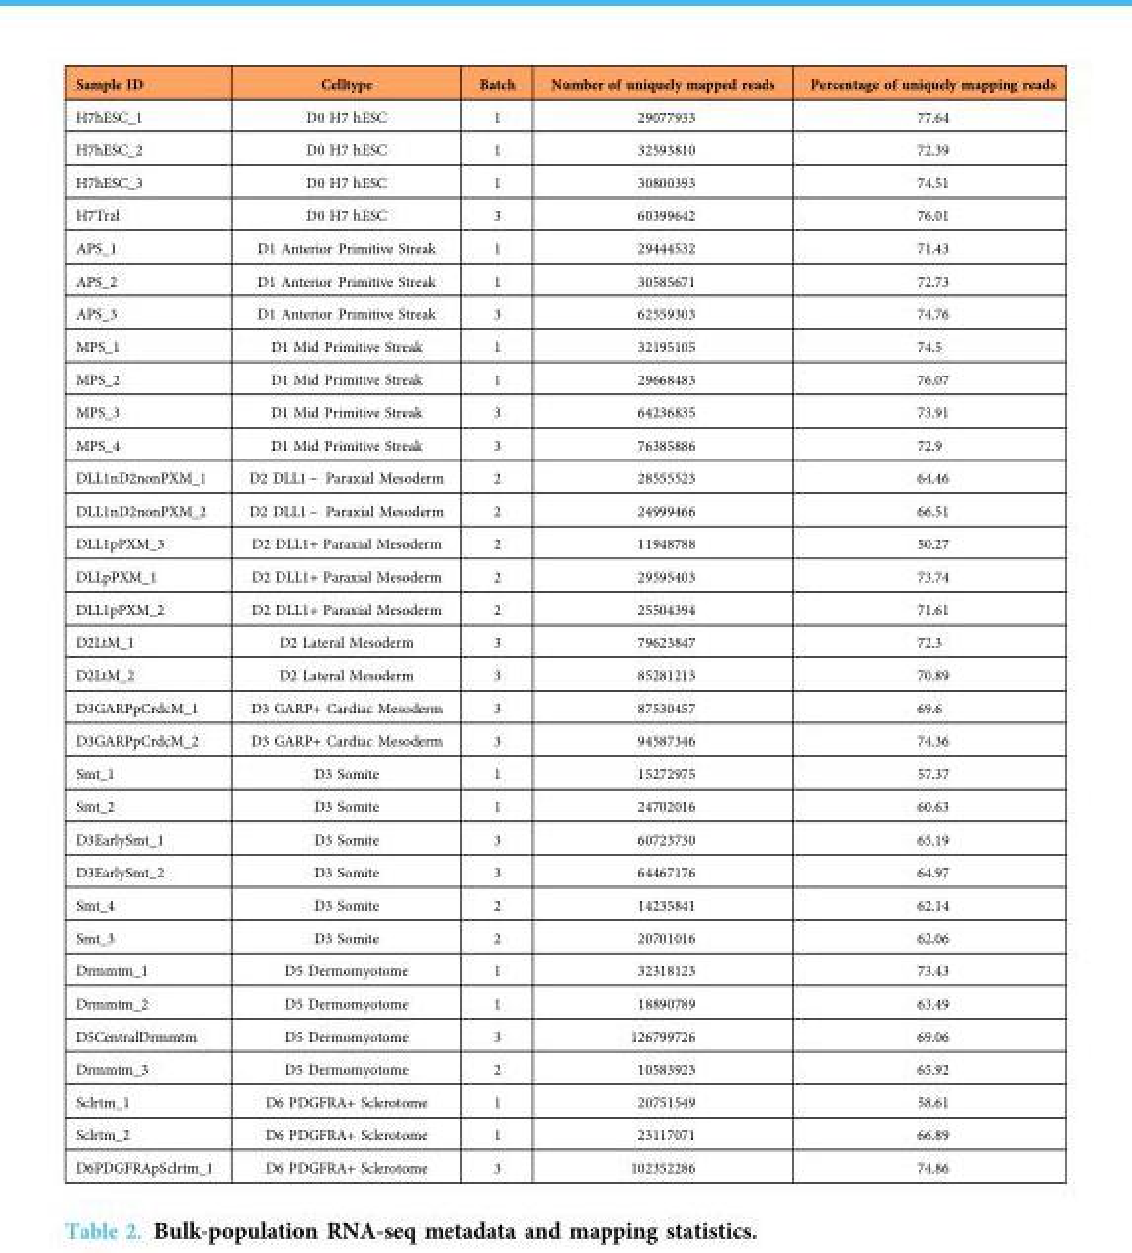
<table><thead><tr><td>Sample ID</td><td>Celltype</td><td>Batch</td><td>Number of uniquely mapped reads</td><td>Percentage of uniquely mapping reads</td></tr></thead><tbody><tr><td>H7hESC_1</td><td>D0 H7 hESC</td><td>1</td><td>29077933</td><td>77.64</td></tr><tr><td>H7hESC_2</td><td>D0 H7 hESC</td><td>1</td><td>32593810</td><td>72.39</td></tr><tr><td>H7hESC_3</td><td>D0 H7 hESC</td><td>1</td><td>30800393</td><td>74.51</td></tr><tr><td>H7Trzl</td><td>D0 H7 hESC</td><td>3</td><td>60399642</td><td>76.01</td></tr><tr><td>APS_1</td><td>D1 Anterior Primitive Streak</td><td>1</td><td>29444532</td><td>71.43</td></tr><tr><td>APS_2</td><td>D1 Anterior Primitive Streak</td><td>1</td><td>30585671</td><td>72.73</td></tr><tr><td>APS_3</td><td>D1 Anterior Primitive Streak</td><td>3</td><td>62559303</td><td>74.76</td></tr><tr><td>MPS_1</td><td>D1 Mid Primitive Streak</td><td>1</td><td>32195105</td><td>74.5</td></tr><tr><td>MPS_2</td><td>D1 Mid Primitive Streak</td><td>1</td><td>29668483</td><td>76.07</td></tr><tr><td>MPS_3</td><td>D1 Mid Primitive Streak</td><td>3</td><td>64236835</td><td>73.91</td></tr><tr><td>MPS_4</td><td>D1 Mid Primitive Streak</td><td>3</td><td>76385886</td><td>72.9</td></tr><tr><td>DLL1nD2nonPXM_1</td><td>D2 DLL1 − Paraxial Mesoderm</td><td>2</td><td>28555523</td><td>64.46</td></tr><tr><td>DLL1nD2nonPXM_2</td><td>D2 DLL1 − Paraxial Mesoderm</td><td>2</td><td>24999466</td><td>66.51</td></tr><tr><td>DLL1pPXM_3</td><td>D2 DLL1+ Paraxial Mesoderm</td><td>2</td><td>11948788</td><td>50.27</td></tr><tr><td>DLLpPXM_1</td><td>D2 DLL1+ Paraxial Mesoderm</td><td>2</td><td>29595403</td><td>73.74</td></tr><tr><td>DLL1pPXM_2</td><td>D2 DLL1+ Paraxial Mesoderm</td><td>2</td><td>25504394</td><td>71.61</td></tr><tr><td>D2LtM_1</td><td>D2 Lateral Mesoderm</td><td>3</td><td>79623847</td><td>72.3</td></tr><tr><td>D2LtM_2</td><td>D2 Lateral Mesoderm</td><td>3</td><td>85281213</td><td>70.89</td></tr><tr><td>D3GARPpCrdcM_1</td><td>D3 GARP+ Cardiac Mesoderm</td><td>3</td><td>87530457</td><td>69.6</td></tr><tr><td>D3GARPpCrdcM_2</td><td>D3 GARP+ Cardiac Mesoderm</td><td>3</td><td>94587346</td><td>74.36</td></tr><tr><td>Smt_1</td><td>D3 Somite</td><td>1</td><td>15272975</td><td>57.37</td></tr><tr><td>Smt_2</td><td>D3 Somite</td><td>1</td><td>24702016</td><td>60.63</td></tr><tr><td>D3EarlySmt_1</td><td>D3 Somite</td><td>3</td><td>60723730</td><td>65.19</td></tr><tr><td>D3EarlySmt_2</td><td>D3 Somite</td><td>3</td><td>64467176</td><td>64.97</td></tr><tr><td>Smt_4</td><td>D3 Somite</td><td>2</td><td>14235841</td><td>62.14</td></tr><tr><td>Smt_3</td><td>D3 Somite</td><td>2</td><td>20701016</td><td>62.06</td></tr><tr><td>Drmmtm_1</td><td>D5 Dermomyotome</td><td>1</td><td>32318123</td><td>73.43</td></tr><tr><td>Drmmtm_2</td><td>D5 Dermomyotome</td><td>1</td><td>18890789</td><td>63.49</td></tr><tr><td>D5CentralDrmmtm</td><td>D5 Dermomyotome</td><td>3</td><td>126799726</td><td>69.06</td></tr><tr><td>Drmmtm_3</td><td>D5 Dermomyotome</td><td>2</td><td>10583923</td><td>65.92</td></tr><tr><td>Sclrtm_1</td><td>D6 PDGFRA+ Sclerotome</td><td>1</td><td>20751549</td><td>58.61</td></tr><tr><td>Sclrtm_2</td><td>D6 PDGFRA+ Sclerotome</td><td>1</td><td>23117071</td><td>66.89</td></tr><tr><td>D6PDGFRApSclrtm_1</td><td>D6 PDGFRA+ Sclerotome</td><td>3</td><td>102352286</td><td>74.86</td></tr></tbody></table>